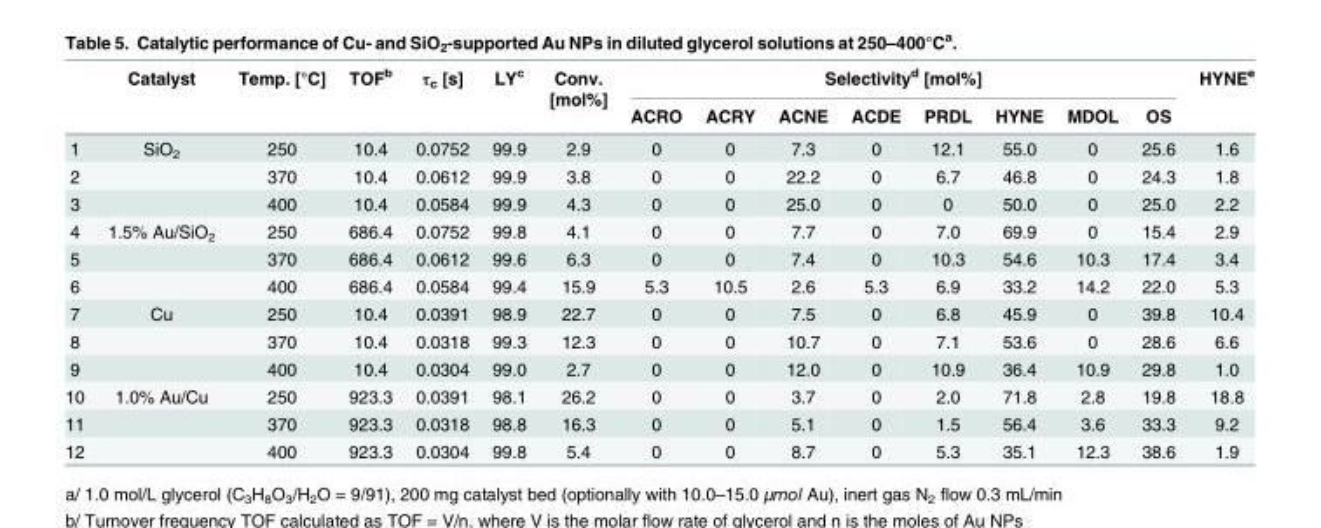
<table><thead><tr><td rowspan="2"></td><td rowspan="2">Catalyst</td><td rowspan="2">Temp. [°C]</td><td rowspan="2">TOF<sup>b</sup></td><td rowspan="2">τ<sub>c</sub> [s]</td><td rowspan="2">LY<sup>c</sup></td><td rowspan="2">Conv. [mol%]</td><td colspan="8">Selectivity<sup>d</sup> [mol%]</td><td rowspan="2">HYNE<sup>e</sup></td></tr><tr><td>ACRO</td><td>ACRY</td><td>ACNE</td><td>ACDE</td><td>PRDL</td><td>HYNE</td><td>MDOL</td><td>OS</td></tr></thead><tbody><tr><td>1</td><td>SiO<sub>2</sub></td><td>250</td><td>10.4</td><td>0.0752</td><td>99.9</td><td>2.9</td><td>0</td><td>0</td><td>7.3</td><td>0</td><td>12.1</td><td>55.0</td><td>0</td><td>25.6</td><td>1.6</td></tr><tr><td>2</td><td></td><td>370</td><td>10.4</td><td>0.0612</td><td>99.9</td><td>3.8</td><td>0</td><td>0</td><td>22.2</td><td>0</td><td>6.7</td><td>46.8</td><td>0</td><td>24.3</td><td>1.8</td></tr><tr><td>3</td><td></td><td>400</td><td>10.4</td><td>0.0584</td><td>99.9</td><td>4.3</td><td>0</td><td>0</td><td>25.0</td><td>0</td><td>0</td><td>50.0</td><td>0</td><td>25.0</td><td>2.2</td></tr><tr><td>4</td><td>1.5% Au/SiO<sub>2</sub></td><td>250</td><td>686.4</td><td>0.0752</td><td>99.8</td><td>4.1</td><td>0</td><td>0</td><td>7.7</td><td>0</td><td>7.0</td><td>69.9</td><td>0</td><td>15.4</td><td>2.9</td></tr><tr><td>5</td><td></td><td>370</td><td>686.4</td><td>0.0612</td><td>99.6</td><td>6.3</td><td>0</td><td>0</td><td>7.4</td><td>0</td><td>10.3</td><td>54.6</td><td>10.3</td><td>17.4</td><td>3.4</td></tr><tr><td>6</td><td></td><td>400</td><td>686.4</td><td>0.0584</td><td>99.4</td><td>15.9</td><td>5.3</td><td>10.5</td><td>2.6</td><td>5.3</td><td>6.9</td><td>33.2</td><td>14.2</td><td>22.0</td><td>5.3</td></tr><tr><td>7</td><td>Cu</td><td>250</td><td>10.4</td><td>0.0391</td><td>98.9</td><td>22.7</td><td>0</td><td>0</td><td>7.5</td><td>0</td><td>6.8</td><td>45.9</td><td>0</td><td>39.8</td><td>10.4</td></tr><tr><td>8</td><td></td><td>370</td><td>10.4</td><td>0.0318</td><td>99.3</td><td>12.3</td><td>0</td><td>0</td><td>10.7</td><td>0</td><td>7.1</td><td>53.6</td><td>0</td><td>28.6</td><td>6.6</td></tr><tr><td>9</td><td></td><td>400</td><td>10.4</td><td>0.0304</td><td>99.0</td><td>2.7</td><td>0</td><td>0</td><td>12.0</td><td>0</td><td>10.9</td><td>36.4</td><td>10.9</td><td>29.8</td><td>1.0</td></tr><tr><td>10</td><td>1.0% Au/Cu</td><td>250</td><td>923.3</td><td>0.0391</td><td>98.1</td><td>26.2</td><td>0</td><td>0</td><td>3.7</td><td>0</td><td>2.0</td><td>71.8</td><td>2.8</td><td>19.8</td><td>18.8</td></tr><tr><td>11</td><td></td><td>370</td><td>923.3</td><td>0.0318</td><td>98.8</td><td>16.3</td><td>0</td><td>0</td><td>5.1</td><td>0</td><td>1.5</td><td>56.4</td><td>3.6</td><td>33.3</td><td>9.2</td></tr><tr><td>12</td><td></td><td>400</td><td>923.3</td><td>0.0304</td><td>99.8</td><td>5.4</td><td>0</td><td>0</td><td>8.7</td><td>0</td><td>5.3</td><td>35.1</td><td>12.3</td><td>38.6</td><td>1.9</td></tr></tbody></table>